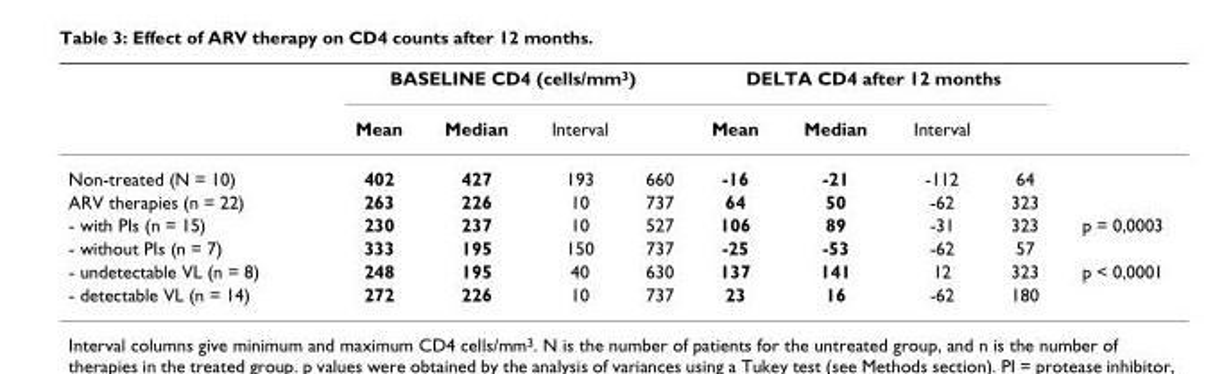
<table><thead><tr><td rowspan="2"></td><td colspan="4">BASELINE CD4 (cells/mm<sup>3</sup>)</td><td colspan="4">DELTA CD4 after 12 months</td><td rowspan="2"></td></tr><tr><td>Mean</td><td>Median</td><td>Interval</td><td></td><td>Mean</td><td>Median</td><td>Interval</td><td></td></tr></thead><tbody><tr><td>Non-treated (N = 10)</td><td>402</td><td>427</td><td>193</td><td>660</td><td>-16</td><td>-21</td><td>-112</td><td>64</td><td></td></tr><tr><td>ARV therapies (n = 22)</td><td>263</td><td>226</td><td>10</td><td>737</td><td>64</td><td>50</td><td>-62</td><td>323</td><td></td></tr><tr><td>- with PIs (n = 15)</td><td>230</td><td>237</td><td>10</td><td>527</td><td>106</td><td>89</td><td>-31</td><td>323</td><td>p = 0,0003</td></tr><tr><td>- without PIs (n = 7)</td><td>333</td><td>195</td><td>150</td><td>737</td><td>-25</td><td>-53</td><td>-62</td><td>57</td><td></td></tr><tr><td>- undetectable VL (n = 8)</td><td>248</td><td>195</td><td>40</td><td>630</td><td>137</td><td>141</td><td>12</td><td>323</td><td>p &lt; 0,0001</td></tr><tr><td>- detectable VL (n = 14)</td><td>272</td><td>226</td><td>10</td><td>737</td><td>23</td><td>16</td><td>-62</td><td>180</td><td></td></tr></tbody></table>